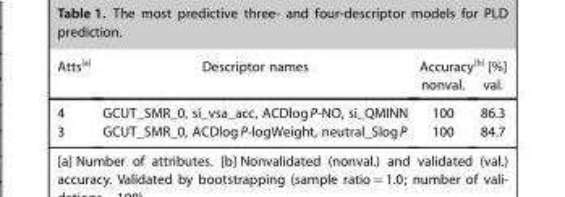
<table><thead><tr><td rowspan="2">Atts[a]</td><td rowspan="2">Descriptor names</td><td colspan="2">Accuracy[b] [%]</td></tr><tr><td>nonval.</td><td>val.</td></tr></thead><tbody><tr><td>4</td><td>GCUT_SMR_0, si_vsa_acc, ACDlogP-NO, si_QMINN</td><td>100</td><td>86.3</td></tr><tr><td>3</td><td>GCUT_SMR_0, ACDlogP-logWeight, neutral_SlogP</td><td>100</td><td>84.7</td></tr></tbody></table>